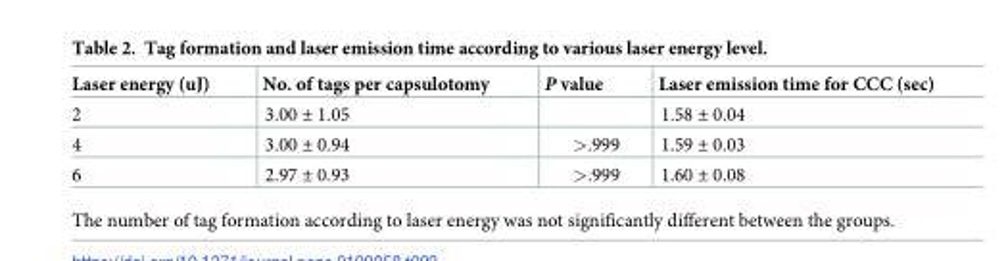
<table><thead><tr><td>Laser energy (uJ)</td><td>No. of tags per capsulotomy</td><td>P value</td><td>Laser emission time for CCC (sec)</td></tr></thead><tbody><tr><td>2</td><td>3.00 ± 1.05</td><td></td><td>1.58 ± 0.04</td></tr><tr><td>4</td><td>3.00 ± 0.94</td><td>&gt;.999</td><td>1.59 ± 0.03</td></tr><tr><td>6</td><td>2.97 ± 0.93</td><td>&gt;.999</td><td>1.60 ± 0.08</td></tr></tbody></table>